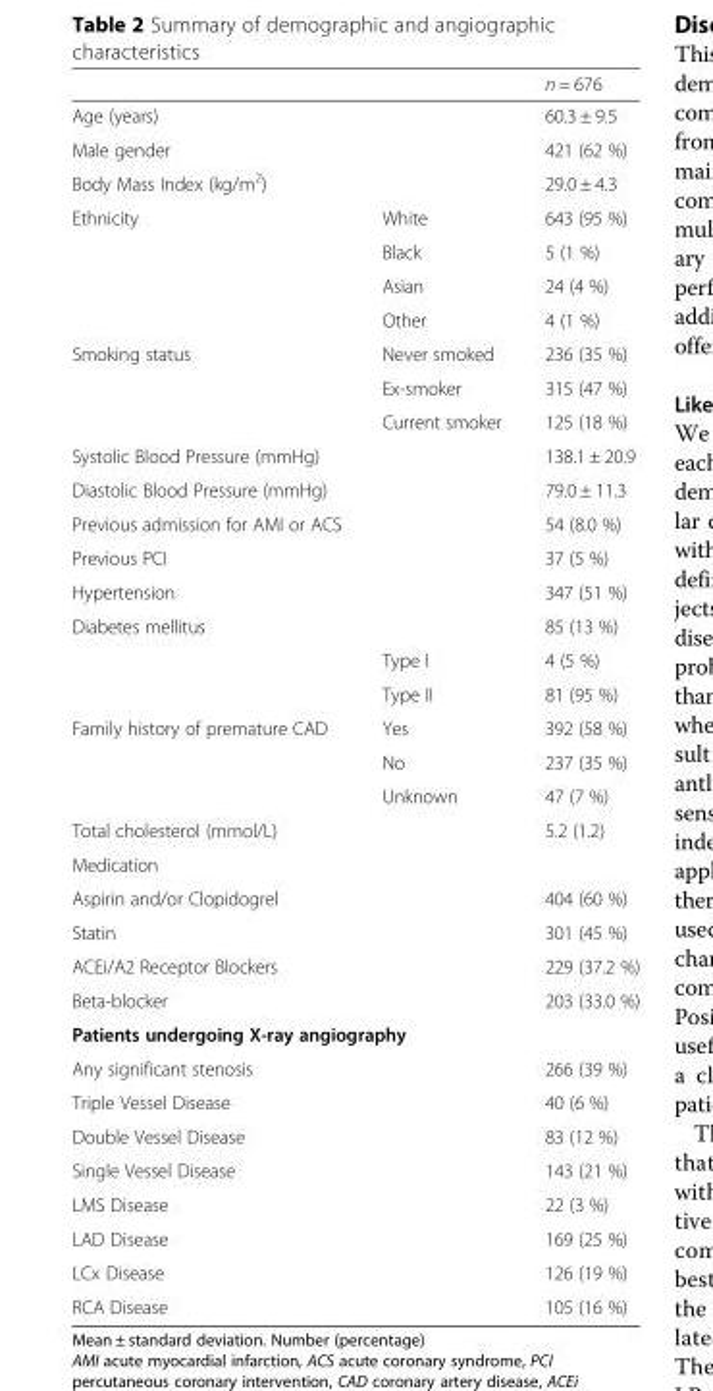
<table><thead><tr><td></td><td></td><td>n = 676</td></tr></thead><tbody><tr><td>Age (years)</td><td></td><td>60.3 ± 9.5</td></tr><tr><td>Male gender</td><td></td><td>421 (62 %)</td></tr><tr><td>Body Mass Index (kg/m<sup>2</sup>)</td><td></td><td>29.0 ± 4.3</td></tr><tr><td rowspan="4">Ethnicity</td><td>White</td><td>643 (95 %)</td></tr><tr><td>Black</td><td>5 (1 %)</td></tr><tr><td>Asian</td><td>24 (4 %)</td></tr><tr><td>Other</td><td>4 (1 %)</td></tr><tr><td rowspan="3">Smoking status</td><td>Never smoked</td><td>236 (35 %)</td></tr><tr><td>Ex-smoker</td><td>315 (47 %)</td></tr><tr><td>Current smoker</td><td>125 (18 %)</td></tr><tr><td>Systolic Blood Pressure (mmHg)</td><td></td><td>138.1 ± 20.9</td></tr><tr><td>Diastolic Blood Pressure (mmHg)</td><td></td><td>79.0 ± 11.3</td></tr><tr><td>Previous admission for AMI or ACS</td><td></td><td>54 (8.0 %)</td></tr><tr><td>Previous PCI</td><td></td><td>37 (5 %)</td></tr><tr><td>Hypertension</td><td></td><td>347 (51 %)</td></tr><tr><td rowspan="3">Diabetes mellitus</td><td></td><td>85 (13 %)</td></tr><tr><td>Type I</td><td>4 (5 %)</td></tr><tr><td>Type II</td><td>81 (95 %)</td></tr><tr><td rowspan="3">Family history of premature CAD</td><td>Yes</td><td>392 (58 %)</td></tr><tr><td>No</td><td>237 (35 %)</td></tr><tr><td>Unknown</td><td>47 (7 %)</td></tr><tr><td>Total cholesterol (mmol/L)</td><td></td><td>5.2 (1.2)</td></tr><tr><td colspan="3">Medication</td></tr><tr><td>Aspirin and/or Clopidogrel</td><td></td><td>404 (60 %)</td></tr><tr><td>Statin</td><td></td><td>301 (45 %)</td></tr><tr><td>ACEi/A2 Receptor Blockers</td><td></td><td>229 (37.2 %)</td></tr><tr><td>Beta-blocker</td><td></td><td>203 (33.0 %)</td></tr><tr><td colspan="3">Patients undergoing X-ray angiography</td></tr><tr><td>Any significant stenosis</td><td></td><td>266 (39 %)</td></tr><tr><td>Triple Vessel Disease</td><td></td><td>40 (6 %)</td></tr><tr><td>Double Vessel Disease</td><td></td><td>83 (12 %)</td></tr><tr><td>Single Vessel Disease</td><td></td><td>143 (21 %)</td></tr><tr><td>LMS Disease</td><td></td><td>22 (3 %)</td></tr><tr><td>LAD Disease</td><td></td><td>169 (25 %)</td></tr><tr><td>LCx Disease</td><td></td><td>126 (19 %)</td></tr><tr><td>RCA Disease</td><td></td><td>105 (16 %)</td></tr></tbody></table>